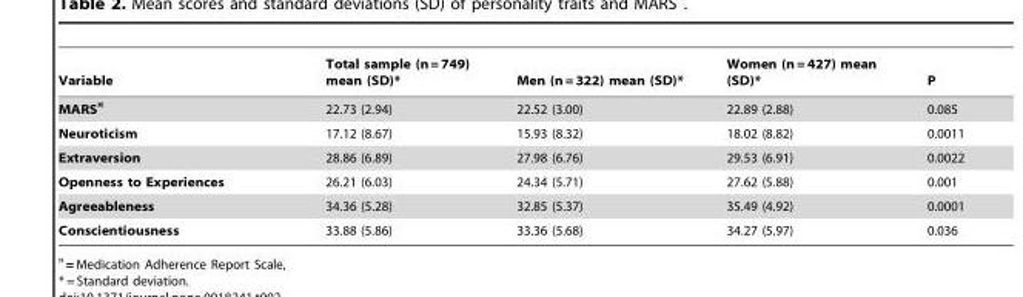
<table><thead><tr><td>Variable</td><td>Total sample (n = 749) mean (SD)*</td><td>Men (n = 322) mean (SD)*</td><td>Women (n = 427) mean (SD)*</td><td>P</td></tr></thead><tbody><tr><td>MARS¤</td><td>22.73 (2.94)</td><td>22.52 (3.00)</td><td>22.89 (2.88)</td><td>0.085</td></tr><tr><td>Neuroticism</td><td>17.12 (8.67)</td><td>15.93 (8.32)</td><td>18.02 (8.82)</td><td>0.0011</td></tr><tr><td>Extraversion</td><td>28.86 (6.89)</td><td>27.98 (6.76)</td><td>29.53 (6.91)</td><td>0.0022</td></tr><tr><td>Openness to Experiences</td><td>26.21 (6.03)</td><td>24.34 (5.71)</td><td>27.62 (5.88)</td><td>0.001</td></tr><tr><td>Agreeableness</td><td>34.36 (5.28)</td><td>32.85 (5.37)</td><td>35.49 (4.92)</td><td>0.0001</td></tr><tr><td>Conscientiousness</td><td>33.88 (5.86)</td><td>33.36 (5.68)</td><td>34.27 (5.97)</td><td>0.036</td></tr></tbody></table>